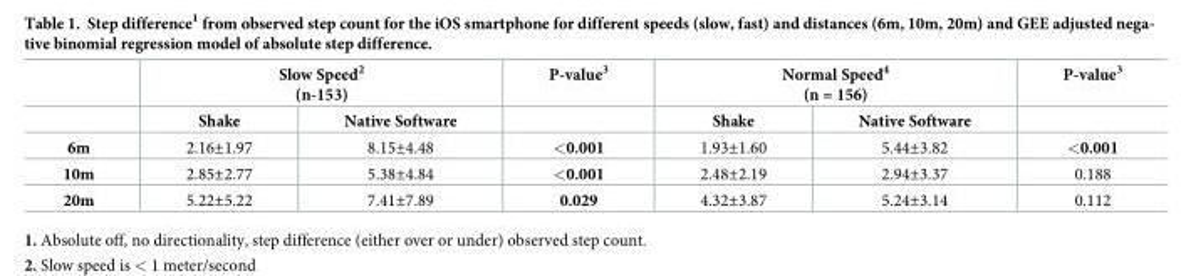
<table><thead><tr><td rowspan="2"></td><td colspan="2">Slow Speed<sup>2</sup> (n-153)</td><td rowspan="2">P-value<sup>3</sup></td><td colspan="2">Normal Speed<sup>4</sup> (n = 156)</td><td rowspan="2">P-value<sup>3</sup></td></tr><tr><td>Shake</td><td>Native Software</td><td>Shake</td><td>Native Software</td></tr></thead><tbody><tr><td>6m</td><td>2.16±1.97</td><td>8.15±4.48</td><td>&lt;0.001</td><td>1.93±1.60</td><td>5.44±3.82</td><td>&lt;0.001</td></tr><tr><td>10m</td><td>2.85±2.77</td><td>5.38±4.84</td><td>&lt;0.001</td><td>2.48±2.19</td><td>2.94±3.37</td><td>0.188</td></tr><tr><td>20m</td><td>5.22±5.22</td><td>7.41±7.89</td><td>0.029</td><td>4.32±3.87</td><td>5.24±3.14</td><td>0.112</td></tr></tbody></table>